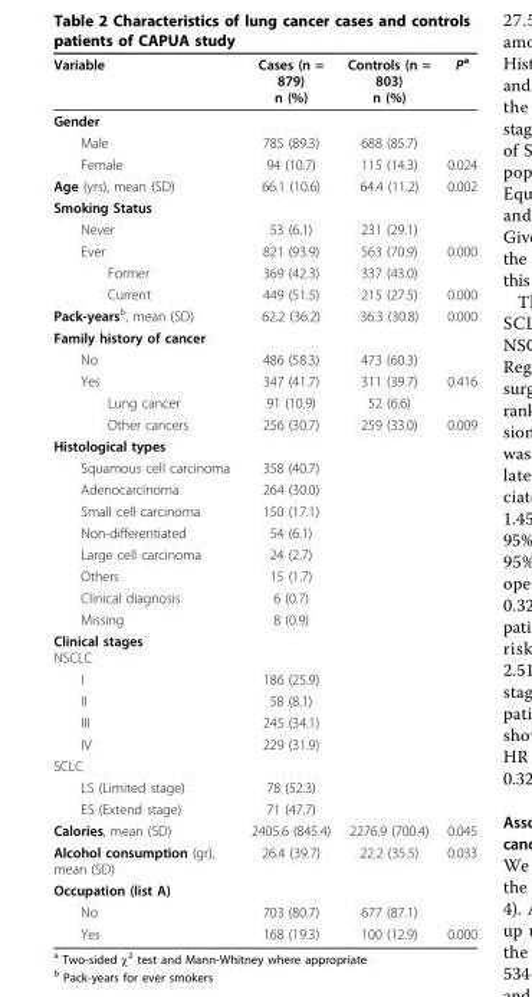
<table><thead><tr><td>Variable</td><td>Cases (n = 879) n (%)</td><td>Controls (n = 803) n (%)</td><td>P<sup>a</sup></td></tr></thead><tbody><tr><td colspan="4">Gender</td></tr><tr><td>Male</td><td>785 (89.3)</td><td>688 (85.7)</td><td></td></tr><tr><td>Female</td><td>94 (10.7)</td><td>115 (14.3)</td><td>0.024</td></tr><tr><td>Age (yrs), mean (SD)</td><td>66.1 (10.6)</td><td>64.4 (11.2)</td><td>0.002</td></tr><tr><td colspan="4">Smoking Status</td></tr><tr><td>Never</td><td>53 (6.1)</td><td>231 (29.1)</td><td></td></tr><tr><td>Ever</td><td>821 (93.9)</td><td>563 (70.9)</td><td>0.000</td></tr><tr><td>Former</td><td>369 (42.3)</td><td>337 (43.0)</td><td></td></tr><tr><td>Current</td><td>449 (51.5)</td><td>215 (27.5)</td><td>0.000</td></tr><tr><td>Pack-years<sup>b</sup>, mean (SD)</td><td>62.2 (36.2)</td><td>36.3 (30.8)</td><td>0.000</td></tr><tr><td colspan="4">Family history of cancer</td></tr><tr><td>No</td><td>486 (58.3)</td><td>473 (60.3)</td><td></td></tr><tr><td>Yes</td><td>347 (41.7)</td><td>311 (39.7)</td><td>0.416</td></tr><tr><td>Lung cancer</td><td>91 (10.9)</td><td>52 (6.6)</td><td></td></tr><tr><td>Other cancers</td><td>256 (30.7)</td><td>259 (33.0)</td><td>0.009</td></tr><tr><td colspan="4">Histological types</td></tr><tr><td>Squamous cell carcinoma</td><td>358 (40.7)</td><td></td><td></td></tr><tr><td>Adenocarcinoma</td><td>264 (30.0)</td><td></td><td></td></tr><tr><td>Small cell carcinoma</td><td>150 (17.1)</td><td></td><td></td></tr><tr><td>Non-differentiated</td><td>54 (6.1)</td><td></td><td></td></tr><tr><td>Large cell carcinoma</td><td>24 (2.7)</td><td></td><td></td></tr><tr><td>Others</td><td>15 (1.7)</td><td></td><td></td></tr><tr><td>Clinical diagnosis</td><td>6 (0.7)</td><td></td><td></td></tr><tr><td>Missing</td><td>8 (0.9)</td><td></td><td></td></tr><tr><td colspan="4">Clinical stages NSCLC</td></tr><tr><td>I</td><td>186 (25.9)</td><td></td><td></td></tr><tr><td>II</td><td>58 (8.1)</td><td></td><td></td></tr><tr><td>III</td><td>245 (34.1)</td><td></td><td></td></tr><tr><td>IV</td><td>229 (31.9)</td><td></td><td></td></tr><tr><td colspan="4">SCLC</td></tr><tr><td>LS (Limited stage)</td><td>78 (52.3)</td><td></td><td></td></tr><tr><td>ES (Extend stage)</td><td>71 (47.7)</td><td></td><td></td></tr><tr><td>Calories, mean (SD)</td><td>2405.6 (845.4)</td><td>2276.9 (700.4)</td><td>0.045</td></tr><tr><td>Alcohol consumption (gr), mean (SD)</td><td>26.4 (39.7)</td><td>22.2 (35.5)</td><td>0.033</td></tr><tr><td colspan="4">Occupation (list A)</td></tr><tr><td>No</td><td>703 (80.7)</td><td>677 (87.1)</td><td></td></tr><tr><td>Yes</td><td>168 (19.3)</td><td>100 (12.9)</td><td>0.000</td></tr></tbody></table>